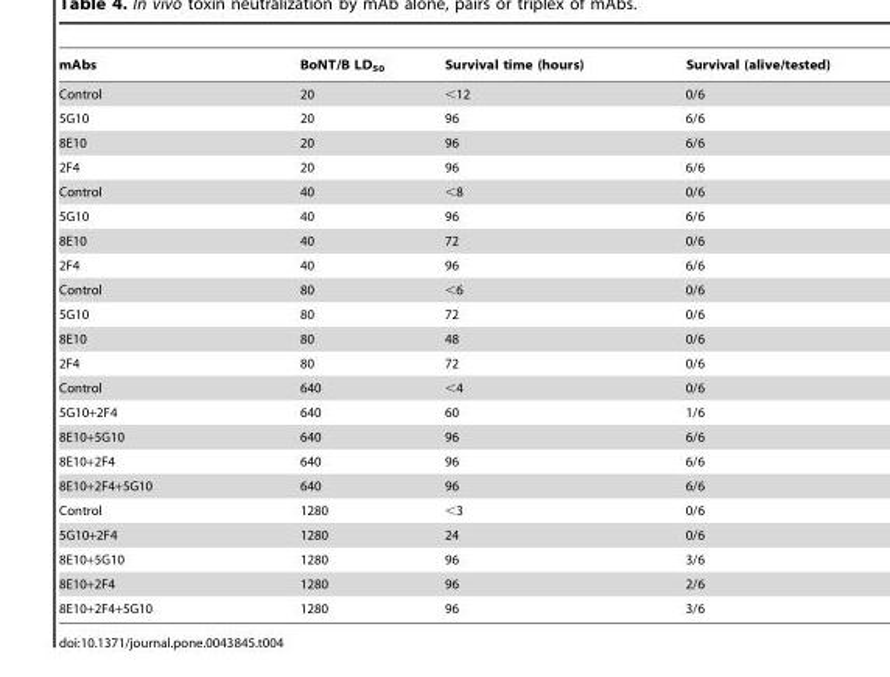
<table><thead><tr><td>mAbs</td><td>BoNT/B LD<sub>50</sub></td><td>Survival time (hours)</td><td>Survival (alive/tested)</td></tr></thead><tbody><tr><td>Control</td><td>20</td><td>&lt;12</td><td>0/6</td></tr><tr><td>5G10</td><td>20</td><td>96</td><td>6/6</td></tr><tr><td>8E10</td><td>20</td><td>96</td><td>6/6</td></tr><tr><td>2F4</td><td>20</td><td>96</td><td>6/6</td></tr><tr><td>Control</td><td>40</td><td>&lt;8</td><td>0/6</td></tr><tr><td>5G10</td><td>40</td><td>96</td><td>6/6</td></tr><tr><td>8E10</td><td>40</td><td>72</td><td>0/6</td></tr><tr><td>2F4</td><td>40</td><td>96</td><td>6/6</td></tr><tr><td>Control</td><td>80</td><td>&lt;6</td><td>0/6</td></tr><tr><td>5G10</td><td>80</td><td>72</td><td>0/6</td></tr><tr><td>8E10</td><td>80</td><td>48</td><td>0/6</td></tr><tr><td>2F4</td><td>80</td><td>72</td><td>0/6</td></tr><tr><td>Control</td><td>640</td><td>&lt;4</td><td>0/6</td></tr><tr><td>5G10+2F4</td><td>640</td><td>60</td><td>1/6</td></tr><tr><td>8E10+5G10</td><td>640</td><td>96</td><td>6/6</td></tr><tr><td>8E10+2F4</td><td>640</td><td>96</td><td>6/6</td></tr><tr><td>8E10+2F4+5G10</td><td>640</td><td>96</td><td>6/6</td></tr><tr><td>Control</td><td>1280</td><td>&lt;3</td><td>0/6</td></tr><tr><td>5G10+2F4</td><td>1280</td><td>24</td><td>0/6</td></tr><tr><td>8E10+5G10</td><td>1280</td><td>96</td><td>3/6</td></tr><tr><td>8E10+2F4</td><td>1280</td><td>96</td><td>2/6</td></tr><tr><td>8E10+2F4+5G10</td><td>1280</td><td>96</td><td>3/6</td></tr></tbody></table>